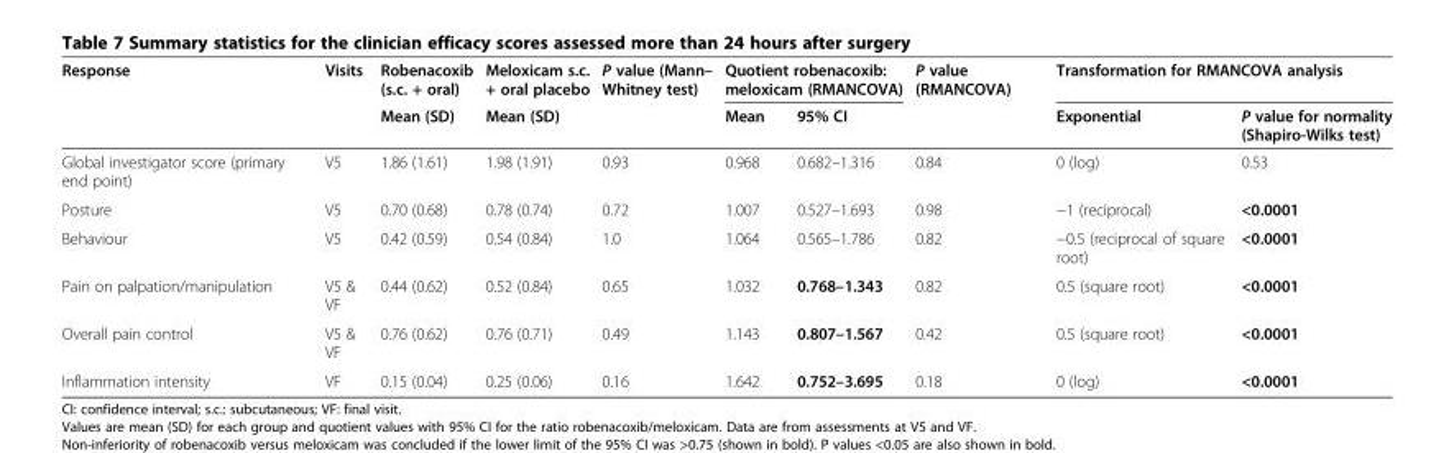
<table><thead><tr><td rowspan="2">Response</td><td rowspan="2">Visits</td><td rowspan="2">Robenacoxib (s.c. + oral) Mean (SD)</td><td rowspan="2">Meloxicam s.c. + oral placebo Mean (SD)</td><td rowspan="2">P value (Mann– Whitney test)</td><td colspan="2">Quotient robenacoxib: meloxicam (RMANCOVA)</td><td rowspan="2">P value (RMANCOVA)</td><td colspan="2">Transformation for RMANCOVA analysis</td></tr><tr><td>Mean</td><td>95% CI</td><td>Exponential</td><td>P value for normality (Shapiro-Wilks test)</td></tr></thead><tbody><tr><td>Global investigator score (primary end point)</td><td>V5</td><td>1.86 (1.61)</td><td>1.98 (1.91)</td><td>0.93</td><td>0.968</td><td>0.682–1.316</td><td>0.84</td><td>0 (log)</td><td>0.53</td></tr><tr><td>Posture</td><td>V5</td><td>0.70 (0.68)</td><td>0.78 (0.74)</td><td>0.72</td><td>1.007</td><td>0.527–1.693</td><td>0.98</td><td>−1 (reciprocal)</td><td>&lt;0.0001</td></tr><tr><td>Behaviour</td><td>V5</td><td>0.42 (0.59)</td><td>0.54 (0.84)</td><td>1.0</td><td>1.064</td><td>0.565–1.786</td><td>0.82</td><td>−0.5 (reciprocal of square root)</td><td>&lt;0.0001</td></tr><tr><td>Pain on palpation/manipulation</td><td>V5 &amp; VF</td><td>0.44 (0.62)</td><td>0.52 (0.84)</td><td>0.65</td><td>1.032</td><td>0.768–1.343</td><td>0.82</td><td>0.5 (square root)</td><td>&lt;0.0001</td></tr><tr><td>Overall pain control</td><td>V5 &amp; VF</td><td>0.76 (0.62)</td><td>0.76 (0.71)</td><td>0.49</td><td>1.143</td><td>0.807–1.567</td><td>0.42</td><td>0.5 (square root)</td><td>&lt;0.0001</td></tr><tr><td>Inflammation intensity</td><td>VF</td><td>0.15 (0.04)</td><td>0.25 (0.06)</td><td>0.16</td><td>1.642</td><td>0.752–3.695</td><td>0.18</td><td>0 (log)</td><td>&lt;0.0001</td></tr></tbody></table>